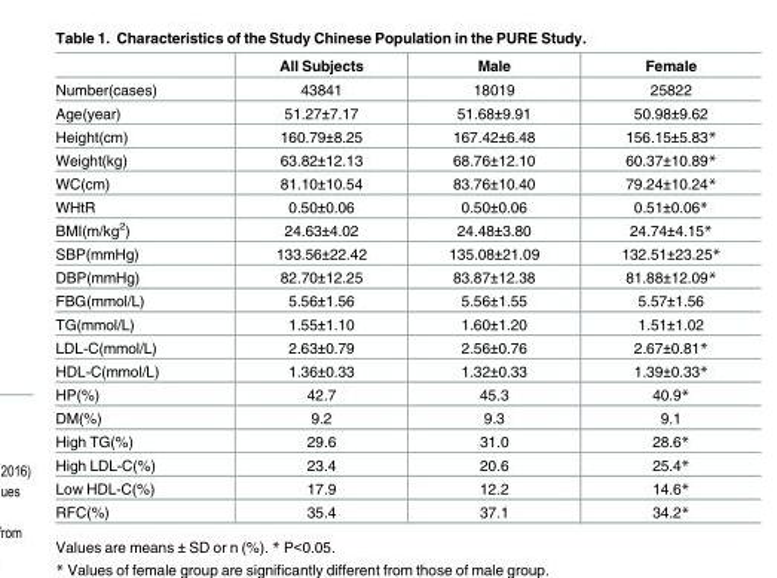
<table><thead><tr><td></td><td>All Subjects</td><td>Male</td><td>Female</td></tr></thead><tbody><tr><td>Number(cases)</td><td>43841</td><td>18019</td><td>25822</td></tr><tr><td>Age(year)</td><td>51.27±7.17</td><td>51.68±9.91</td><td>50.98±9.62</td></tr><tr><td>Height(cm)</td><td>160.79±8.25</td><td>167.42±6.48</td><td>156.15±5.83*</td></tr><tr><td>Weight(kg)</td><td>63.82±12.13</td><td>68.76±12.10</td><td>60.37±10.89*</td></tr><tr><td>WC(cm)</td><td>81.10±10.54</td><td>83.76±10.40</td><td>79.24±10.24*</td></tr><tr><td>WHtR</td><td>0.50±0.06</td><td>0.50±0.06</td><td>0.51±0.06*</td></tr><tr><td>BMI(m/kg<sup>2</sup>)</td><td>24.63±4.02</td><td>24.48±3.80</td><td>24.74±4.15*</td></tr><tr><td>SBP(mmHg)</td><td>133.56±22.42</td><td>135.08±21.09</td><td>132.51±23.25*</td></tr><tr><td>DBP(mmHg)</td><td>82.70±12.25</td><td>83.87±12.38</td><td>81.88±12.09*</td></tr><tr><td>FBG(mmol/L)</td><td>5.56±1.56</td><td>5.56±1.55</td><td>5.57±1.56</td></tr><tr><td>TG(mmol/L)</td><td>1.55±1.10</td><td>1.60±1.20</td><td>1.51±1.02</td></tr><tr><td>LDL-C(mmol/L)</td><td>2.63±0.79</td><td>2.56±0.76</td><td>2.67±0.81*</td></tr><tr><td>HDL-C(mmol/L)</td><td>1.36±0.33</td><td>1.32±0.33</td><td>1.39±0.33*</td></tr><tr><td>HP(%)</td><td>42.7</td><td>45.3</td><td>40.9*</td></tr><tr><td>DM(%)</td><td>9.2</td><td>9.3</td><td>9.1</td></tr><tr><td>High TG(%)</td><td>29.6</td><td>31.0</td><td>28.6*</td></tr><tr><td>High LDL-C(%)</td><td>23.4</td><td>20.6</td><td>25.4*</td></tr><tr><td>Low HDL-C(%)</td><td>17.9</td><td>12.2</td><td>14.6*</td></tr><tr><td>RFC(%)</td><td>35.4</td><td>37.1</td><td>34.2*</td></tr></tbody></table>